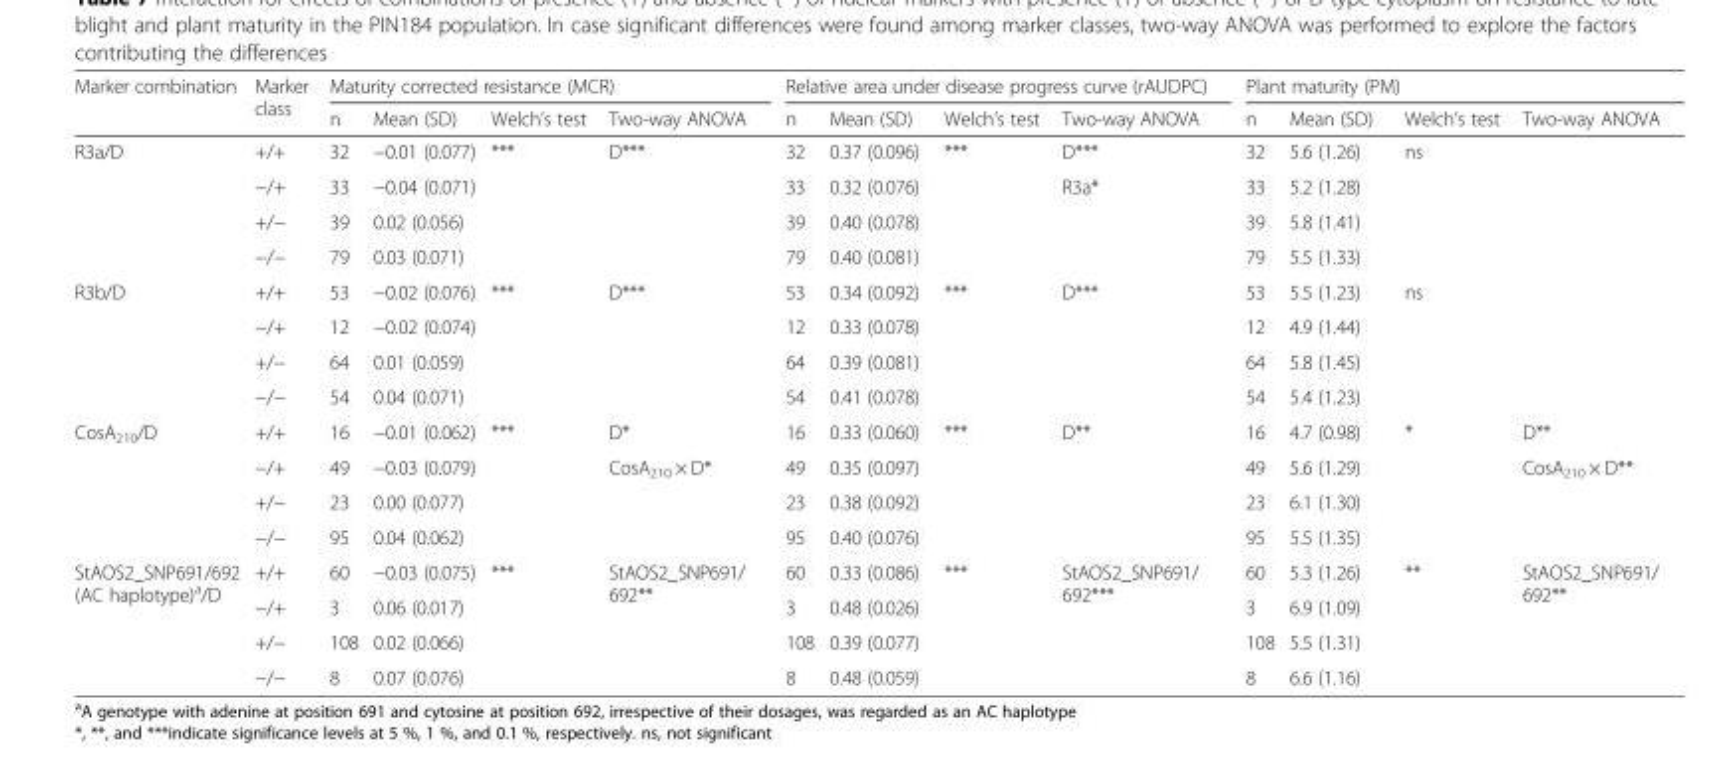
<table><thead><tr><td rowspan="2">Marker combination</td><td rowspan="2">Marker class</td><td colspan="4">Maturity corrected resistance (MCR)</td><td colspan="4">Relative area under disease progress curve (rAUDPC)</td><td colspan="4">Plant maturity (PM)</td></tr><tr><td>n</td><td>Mean (SD)</td><td>Welch’s test</td><td>Two-way ANOVA</td><td>n</td><td>Mean (SD)</td><td>Welch’s test</td><td>Two-way ANOVA</td><td>n</td><td>Mean (SD)</td><td>Welch’s test</td><td>Two-way ANOVA</td></tr></thead><tbody><tr><td rowspan="4">R3a/D</td><td>+/+</td><td>32</td><td>−0.01 (0.077)</td><td>***</td><td>D***</td><td>32</td><td>0.37 (0.096)</td><td>***</td><td>D***</td><td>32</td><td>5.6 (1.26)</td><td>ns</td><td></td></tr><tr><td>−/+</td><td>33</td><td>−0.04 (0.071)</td><td></td><td></td><td>33</td><td>0.32 (0.076)</td><td></td><td>R3a*</td><td>33</td><td>5.2 (1.28)</td><td></td><td></td></tr><tr><td>+/−</td><td>39</td><td>0.02 (0.056)</td><td></td><td></td><td>39</td><td>0.40 (0.078)</td><td></td><td></td><td>39</td><td>5.8 (1.41)</td><td></td><td></td></tr><tr><td>−/−</td><td>79</td><td>0.03 (0.071)</td><td></td><td></td><td>79</td><td>0.40 (0.081)</td><td></td><td></td><td>79</td><td>5.5 (1.33)</td><td></td><td></td></tr><tr><td rowspan="4">R3b/D</td><td>+/+</td><td>53</td><td>−0.02 (0.076)</td><td>***</td><td>D***</td><td>53</td><td>0.34 (0.092)</td><td>***</td><td>D***</td><td>53</td><td>5.5 (1.23)</td><td>ns</td><td></td></tr><tr><td>−/+</td><td>12</td><td>−0.02 (0.074)</td><td></td><td></td><td>12</td><td>0.33 (0.078)</td><td></td><td></td><td>12</td><td>4.9 (1.44)</td><td></td><td></td></tr><tr><td>+/−</td><td>64</td><td>0.01 (0.059)</td><td></td><td></td><td>64</td><td>0.39 (0.081)</td><td></td><td></td><td>64</td><td>5.8 (1.45)</td><td></td><td></td></tr><tr><td>−/−</td><td>54</td><td>0.04 (0.071)</td><td></td><td></td><td>54</td><td>0.41 (0.078)</td><td></td><td></td><td>54</td><td>5.4 (1.23)</td><td></td><td></td></tr><tr><td rowspan="4">CosA<sub>210</sub>/D</td><td>+/+</td><td>16</td><td>−0.01 (0.062)</td><td>***</td><td>D*</td><td>16</td><td>0.33 (0.060)</td><td>***</td><td>D**</td><td>16</td><td>4.7 (0.98)</td><td>*</td><td>D**</td></tr><tr><td>−/+</td><td>49</td><td>−0.03 (0.079)</td><td></td><td>CosA<sub>210</sub> × D*</td><td>49</td><td>0.35 (0.097)</td><td></td><td></td><td>49</td><td>5.6 (1.29)</td><td></td><td>CosA<sub>210</sub> × D**</td></tr><tr><td>+/−</td><td>23</td><td>0.00 (0.077)</td><td></td><td></td><td>23</td><td>0.38 (0.092)</td><td></td><td></td><td>23</td><td>6.1 (1.30)</td><td></td><td></td></tr><tr><td>−/−</td><td>95</td><td>0.04 (0.062)</td><td></td><td></td><td>95</td><td>0.40 (0.076)</td><td></td><td></td><td>95</td><td>5.5 (1.35)</td><td></td><td></td></tr><tr><td rowspan="4">StAOS2_SNP691/692 (AC haplotype)<sup>a</sup>/D</td><td>+/+</td><td>60</td><td>−0.03 (0.075)</td><td>***</td><td rowspan="2">StAOS2_SNP691/ 692**</td><td>60</td><td>0.33 (0.086)</td><td>***</td><td rowspan="4">StAOS2_SNP691/ 692***</td><td>60</td><td>5.3 (1.26)</td><td>**</td><td rowspan="2">StAOS2_SNP691/ 692**</td></tr><tr><td>−/+</td><td>3</td><td>0.06 (0.017)</td><td></td><td>3</td><td>0.48 (0.026)</td><td></td><td>3</td><td>6.9 (1.09)</td><td></td></tr><tr><td>+/−</td><td>108</td><td>0.02 (0.066)</td><td></td><td></td><td>108</td><td>0.39 (0.077)</td><td></td><td>108</td><td>5.5 (1.31)</td><td></td><td></td></tr><tr><td>−/−</td><td>8</td><td>0.07 (0.076)</td><td></td><td></td><td>8</td><td>0.48 (0.059)</td><td></td><td>8</td><td>6.6 (1.16)</td><td></td><td></td></tr></tbody></table>